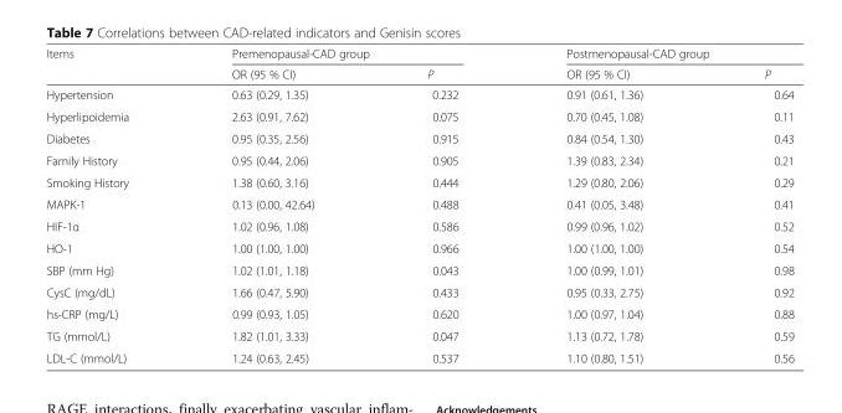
<table><thead><tr><td rowspan="2">Items</td><td colspan="2">Premenopausal-CAD group</td><td colspan="2">Postmenopausal-CAD group</td></tr><tr><td>OR (95 % CI)</td><td>P</td><td>OR (95 % CI)</td><td>P</td></tr></thead><tbody><tr><td>Hypertension</td><td>0.63 (0.29, 1.35)</td><td>0.232</td><td>0.91 (0.61, 1.36)</td><td>0.64</td></tr><tr><td>Hyperlipoidemia</td><td>2.63 (0.91, 7.62)</td><td>0.075</td><td>0.70 (0.45, 1.08)</td><td>0.11</td></tr><tr><td>Diabetes</td><td>0.95 (0.35, 2.56)</td><td>0.915</td><td>0.84 (0.54, 1.30)</td><td>0.43</td></tr><tr><td>Family History</td><td>0.95 (0.44, 2.06)</td><td>0.905</td><td>1.39 (0.83, 2.34)</td><td>0.21</td></tr><tr><td>Smoking History</td><td>1.38 (0.60, 3.16)</td><td>0.444</td><td>1.29 (0.80, 2.06)</td><td>0.29</td></tr><tr><td>MAPK-1</td><td>0.13 (0.00, 42.64)</td><td>0.488</td><td>0.41 (0.05, 3.48)</td><td>0.41</td></tr><tr><td>HIF-1α</td><td>1.02 (0.96, 1.08)</td><td>0.586</td><td>0.99 (0.96, 1.02)</td><td>0.52</td></tr><tr><td>HO-1</td><td>1.00 (1.00, 1.00)</td><td>0.966</td><td>1.00 (1.00, 1.00)</td><td>0.54</td></tr><tr><td>SBP (mm Hg)</td><td>1.02 (1.01, 1.18)</td><td>0.043</td><td>1.00 (0.99, 1.01)</td><td>0.98</td></tr><tr><td>CysC (mg/dL)</td><td>1.66 (0.47, 5.90)</td><td>0.433</td><td>0.95 (0.33, 2.75)</td><td>0.92</td></tr><tr><td>hs-CRP (mg/L)</td><td>0.99 (0.93, 1.05)</td><td>0.620</td><td>1.00 (0.97, 1.04)</td><td>0.88</td></tr><tr><td>TG (mmol/L)</td><td>1.82 (1.01, 3.33)</td><td>0.047</td><td>1.13 (0.72, 1.78)</td><td>0.59</td></tr><tr><td>LDL-C (mmol/L)</td><td>1.24 (0.63, 2.45)</td><td>0.537</td><td>1.10 (0.80, 1.51)</td><td>0.56</td></tr></tbody></table>